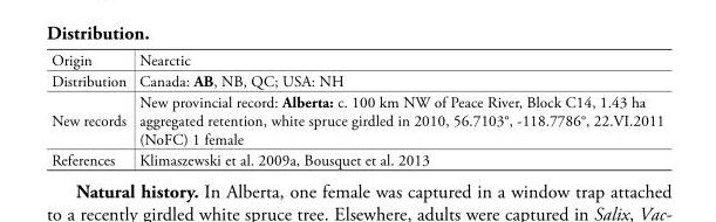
<table><tbody><tr><td>Origin</td><td>Nearctic</td></tr><tr><td>Distribution</td><td>Canada: AB, NB, QC; USA: NH</td></tr><tr><td>New records</td><td>New provincial record: Alberta: c. 100 km NW of Peace River, Block C14, 1.43 ha aggregated retention, white spruce girdled in 2010, 56.7103°, -118.7786°, 22.VI.2011 (NoFC) 1 female</td></tr><tr><td>References</td><td>Klimaszewski et al. 2009a, Bousquet et al. 2013</td></tr></tbody></table>